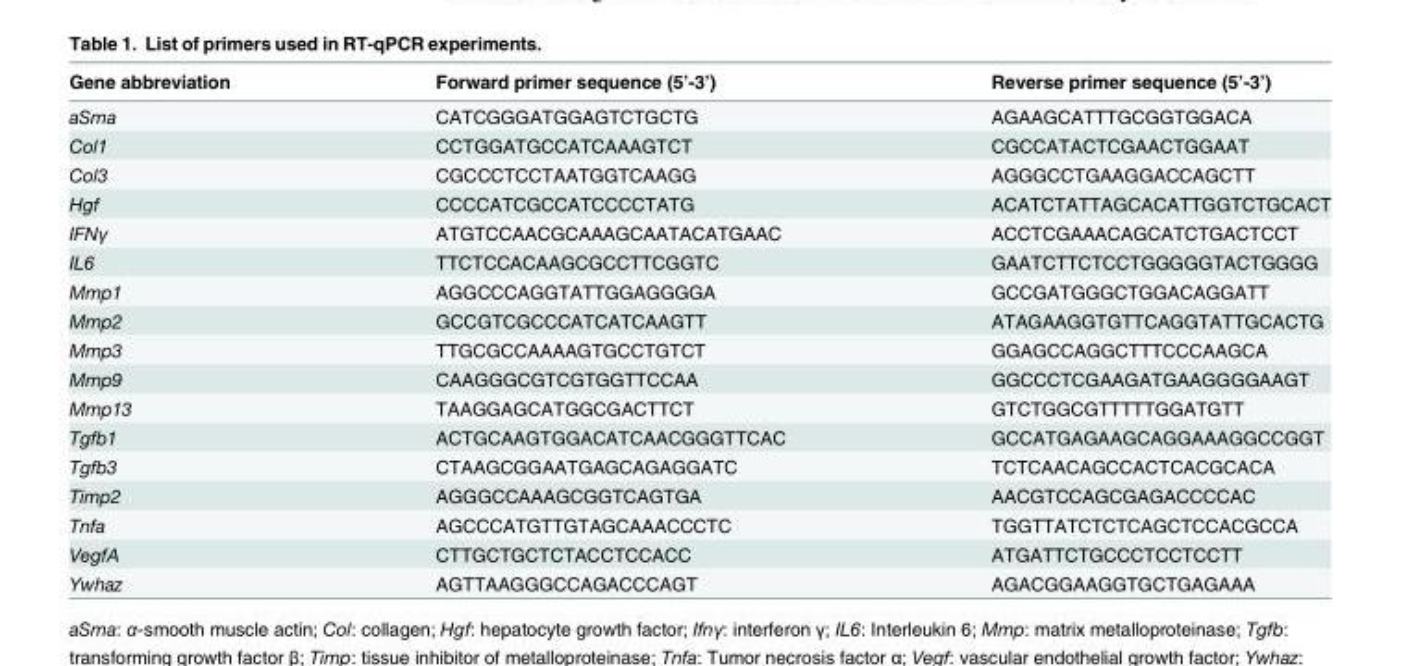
<table><thead><tr><td>Gene abbreviation</td><td>Forward primer sequence (5’-3’)</td><td>Reverse primer sequence (5’-3’)</td></tr></thead><tbody><tr><td>aSma</td><td>CATCGGGATGGAGTCTGCTG</td><td>AGAAGCATTTGCGGTGGACA</td></tr><tr><td>Col1</td><td>CCTGGATGCCATCAAAGTCT</td><td>CGCCATACTCGAACTGGAAT</td></tr><tr><td>Col3</td><td>CGCCCTCCTAATGGTCAAGG</td><td>AGGGCCTGAAGGACCAGCTT</td></tr><tr><td>Hgf</td><td>CCCCATCGCCATCCCCTATG</td><td>ACATCTATTAGCACATTGGTCTGCACT</td></tr><tr><td>IFNγ</td><td>ATGTCCAACGCAAAGCAATACATGAAC</td><td>ACCTCGAAACAGCATCTGACTCCT</td></tr><tr><td>IL6</td><td>TTCTCCACAAGCGCCTTCGGTC</td><td>GAATCTTCTCCTGGGGGTACTGGGG</td></tr><tr><td>Mmp1</td><td>AGGCCCAGGTATTGGAGGGGA</td><td>GCCGATGGGCTGGACAGGATT</td></tr><tr><td>Mmp2</td><td>GCCGTCGCCCATCATCAAGTT</td><td>ATAGAAGGTGTTCAGGTATTGCACTG</td></tr><tr><td>Mmp3</td><td>TTGCGCCAAAAGTGCCTGTCT</td><td>GGAGCCAGGCTTTCCCAAGCA</td></tr><tr><td>Mmp9</td><td>CAAGGGCGTCGTGGTTCCAA</td><td>GGCCCTCGAAGATGAAGGGGAAGT</td></tr><tr><td>Mmp13</td><td>TAAGGAGCATGGCGACTTCT</td><td>GTCTGGCGTTTTTGGATGTT</td></tr><tr><td>Tgfb1</td><td>ACTGCAAGTGGACATCAACGGGTTCAC</td><td>GCCATGAGAAGCAGGAAAGGCCGGT</td></tr><tr><td>Tgfb3</td><td>CTAAGCGGAATGAGCAGAGGATC</td><td>TCTCAACAGCCACTCACGCACA</td></tr><tr><td>Timp2</td><td>AGGGCCAAAGCGGTCAGTGA</td><td>AACGTCCAGCGAGACCCCAC</td></tr><tr><td>Tnfa</td><td>AGCCCATGTTGTAGCAAACCCTC</td><td>TGGTTATCTCTCAGCTCCACGCCA</td></tr><tr><td>VegfA</td><td>CTTGCTGCTCTACCTCCACC</td><td>ATGATTCTGCCCTCCTCCTT</td></tr><tr><td>Ywhaz</td><td>AGTTAAGGGCCAGACCCAGT</td><td>AGACGGAAGGTGCTGAGAAA</td></tr></tbody></table>